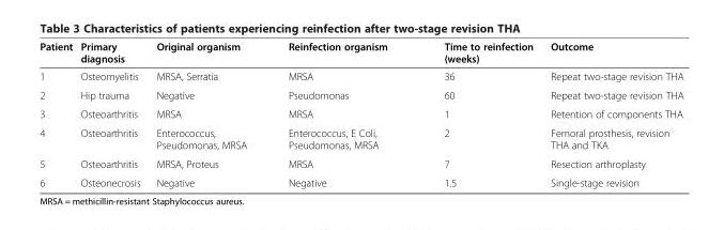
<table><thead><tr><td>Patient</td><td>Primary diagnosis</td><td>Original organism</td><td>Reinfection organism</td><td>Time to reinfection (weeks)</td><td>Outcome</td></tr></thead><tbody><tr><td>1</td><td>Osteomyelitis</td><td>MRSA, Serratia</td><td>MRSA</td><td>36</td><td>Repeat two-stage revision THA</td></tr><tr><td>2</td><td>Hip trauma</td><td>Negative</td><td>Pseudomonas</td><td>60</td><td>Repeat two-stage revision THA</td></tr><tr><td>3</td><td>Osteoarthritis</td><td>MRSA</td><td>MRSA</td><td>1</td><td>Retention of components THA</td></tr><tr><td>4</td><td>Osteoarthritis</td><td>Enterococcus, Pseudomonas, MRSA</td><td>Enterococcus, E Coli, Pseudomonas, MRSA</td><td>2</td><td>Femoral prosthesis, revision THA and TKA</td></tr><tr><td>5</td><td>Osteoarthritis</td><td>MRSA, Proteus</td><td>MRSA</td><td>7</td><td>Resection arthroplasty</td></tr><tr><td>6</td><td>Osteonecrosis</td><td>Negative</td><td>Negative</td><td>1.5</td><td>Single-stage revision</td></tr></tbody></table>